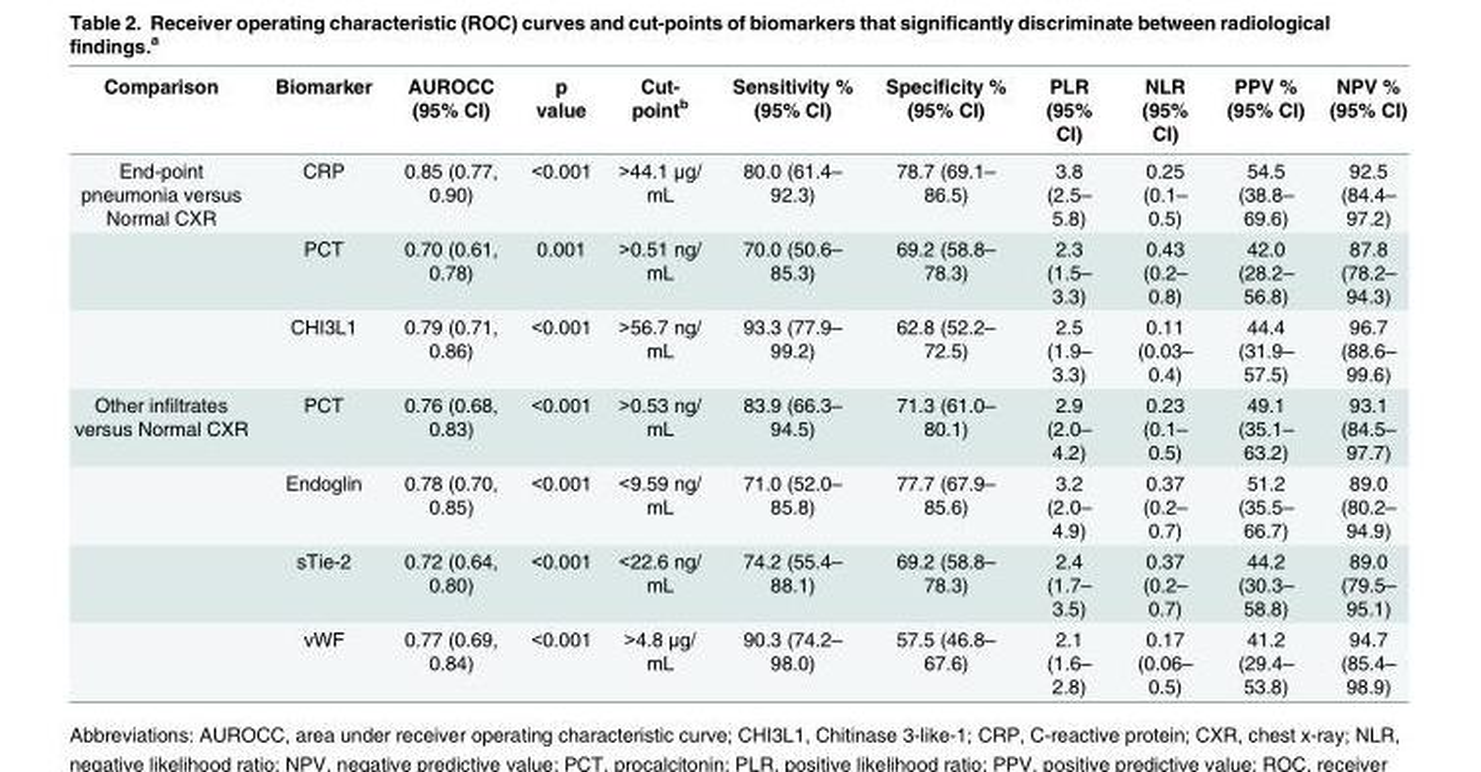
<table><thead><tr><td>Comparison</td><td>Biomarker</td><td>AUROCC (95% CI)</td><td>p value</td><td>Cut- point<sup>b</sup></td><td>Sensitivity % (95% CI)</td><td>Specificity % (95% CI)</td><td>PLR (95% CI)</td><td>NLR (95% CI)</td><td>PPV % (95% CI)</td><td>NPV % (95% CI)</td></tr></thead><tbody><tr><td rowspan="3">End-point pneumonia versus Normal CXR</td><td>CRP</td><td>0.85 (0.77, 0.90)</td><td>&lt;0.001</td><td>&gt;44.1 μg/ mL</td><td>80.0 (61.4– 92.3)</td><td>78.7 (69.1– 86.5)</td><td>3.8 (2.5– 5.8)</td><td>0.25 (0.1– 0.5)</td><td>54.5 (38.8– 69.6)</td><td>92.5 (84.4– 97.2)</td></tr><tr><td>PCT</td><td>0.70 (0.61, 0.78)</td><td>0.001</td><td>&gt;0.51 ng/ mL</td><td>70.0 (50.6– 85.3)</td><td>69.2 (58.8– 78.3)</td><td>2.3 (1.5– 3.3)</td><td>0.43 (0.2– 0.8)</td><td>42.0 (28.2– 56.8)</td><td>87.8 (78.2– 94.3)</td></tr><tr><td>CHI3L1</td><td>0.79 (0.71, 0.86)</td><td>&lt;0.001</td><td>&gt;56.7 ng/ mL</td><td>93.3 (77.9– 99.2)</td><td>62.8 (52.2– 72.5)</td><td>2.5 (1.9– 3.3)</td><td>0.11 (0.03– 0.4)</td><td>44.4 (31.9– 57.5)</td><td>96.7 (88.6– 99.6)</td></tr><tr><td rowspan="4">Other infiltrates versus Normal CXR</td><td>PCT</td><td>0.76 (0.68, 0.83)</td><td>&lt;0.001</td><td>&gt;0.53 ng/ mL</td><td>83.9 (66.3– 94.5)</td><td>71.3 (61.0– 80.1)</td><td>2.9 (2.0– 4.2)</td><td>0.23 (0.1– 0.5)</td><td>49.1 (35.1– 63.2)</td><td>93.1 (84.5– 97.7)</td></tr><tr><td>Endoglin</td><td>0.78 (0.70, 0.85)</td><td>&lt;0.001</td><td>&lt;9.59 ng/ mL</td><td>71.0 (52.0– 85.8)</td><td>77.7 (67.9– 85.6)</td><td>3.2 (2.0– 4.9)</td><td>0.37 (0.2– 0.7)</td><td>51.2 (35.5– 66.7)</td><td>89.0 (80.2– 94.9)</td></tr><tr><td>sTie-2</td><td>0.72 (0.64, 0.80)</td><td>&lt;0.001</td><td>&lt;22.6 ng/ mL</td><td>74.2 (55.4– 88.1)</td><td>69.2 (58.8– 78.3)</td><td>2.4 (1.7– 3.5)</td><td>0.37 (0.2– 0.7)</td><td>44.2 (30.3– 58.8)</td><td>89.0 (79.5– 95.1)</td></tr><tr><td>vWF</td><td>0.77 (0.69, 0.84)</td><td>&lt;0.001</td><td>&gt;4.8 μg/ mL</td><td>90.3 (74.2– 98.0)</td><td>57.5 (46.8– 67.6)</td><td>2.1 (1.6– 2.8)</td><td>0.17 (0.06– 0.5)</td><td>41.2 (29.4– 53.8)</td><td>94.7 (85.4– 98.9)</td></tr></tbody></table>